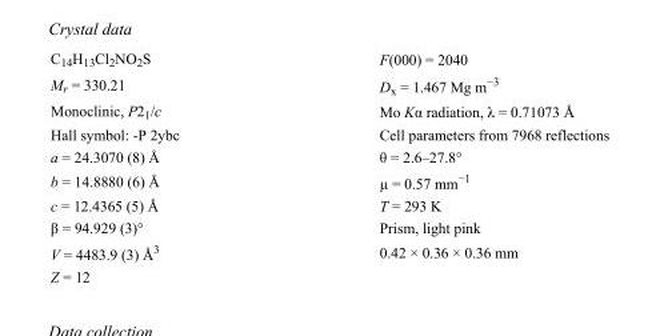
<table><tbody><tr><td>C<sub>14</sub>H<sub>13</sub>Cl<sub>2</sub>NO<sub>2</sub>S</td><td>F(000) = 2040</td></tr><tr><td>M<sub>r</sub> = 330.21</td><td>D<sub>x</sub> = 1.467 Mg m<sup>−3</sup></td></tr><tr><td>Monoclinic, P2<sub>1</sub>/c</td><td>Mo Kα radiation, λ = 0.71073 Å</td></tr><tr><td>Hall symbol: -P 2ybc</td><td>Cell parameters from 7968 reflections</td></tr><tr><td>a = 24.3070 (8) Å</td><td>θ = 2.6–27.8°</td></tr><tr><td>b = 14.8880 (6) Å</td><td>µ = 0.57 mm<sup>−1</sup></td></tr><tr><td>c = 12.4365 (5) Å</td><td>T = 293 K</td></tr><tr><td>β = 94.929 (3)°</td><td>Prism, light pink</td></tr><tr><td>V = 4483.9 (3) Å<sup>3</sup></td><td>0.42 × 0.36 × 0.36 mm</td></tr><tr><td>Z = 12</td><td></td></tr></tbody></table>